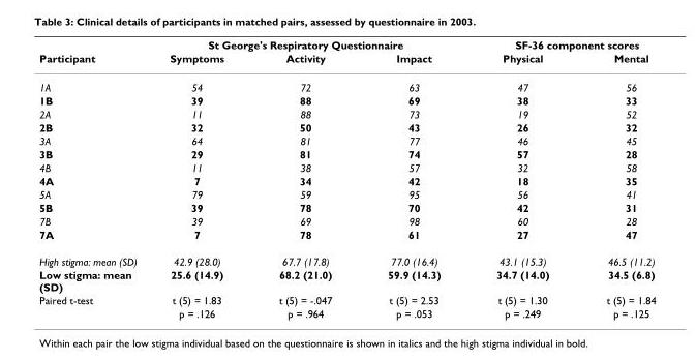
<table><thead><tr><td rowspan="2">Participant</td><td colspan="3">St George&#x27;s Respiratory Questionnaire</td><td colspan="2">SF-36 component scores</td></tr><tr><td>Symptoms</td><td>Activity</td><td>Impact</td><td>Physical</td><td>Mental</td></tr></thead><tbody><tr><td>1A</td><td>54</td><td>72</td><td>63</td><td>47</td><td>56</td></tr><tr><td>1B</td><td>39</td><td>88</td><td>69</td><td>38</td><td>33</td></tr><tr><td>2A</td><td>11</td><td>88</td><td>73</td><td>19</td><td>52</td></tr><tr><td>2B</td><td>32</td><td>50</td><td>43</td><td>26</td><td>32</td></tr><tr><td>3A</td><td>64</td><td>81</td><td>77</td><td>46</td><td>45</td></tr><tr><td>3B</td><td>29</td><td>81</td><td>74</td><td>57</td><td>28</td></tr><tr><td>4B</td><td>11</td><td>38</td><td>57</td><td>32</td><td>58</td></tr><tr><td>4A</td><td>7</td><td>34</td><td>42</td><td>18</td><td>35</td></tr><tr><td>5A</td><td>79</td><td>59</td><td>95</td><td>56</td><td>41</td></tr><tr><td>5B</td><td>39</td><td>78</td><td>70</td><td>42</td><td>31</td></tr><tr><td>7B</td><td>39</td><td>69</td><td>98</td><td>60</td><td>28</td></tr><tr><td>7A</td><td>7</td><td>78</td><td>61</td><td>27</td><td>47</td></tr><tr><td>High stigma: mean (SD)</td><td>42.9 (28.0)</td><td>67.7 (17.8)</td><td>77.0 (16.4)</td><td>43.1 (15.3)</td><td>46.5 (11.2)</td></tr><tr><td>Low stigma: mean (SD)</td><td>25.6 (14.9)</td><td>68.2 (21.0)</td><td>59.9 (14.3)</td><td>34.7 (14.0)</td><td>34.5 (6.8)</td></tr><tr><td rowspan="2">Paired t-test</td><td>t (5) = 1.83</td><td>t (5) = -.047</td><td>t (5) = 2.53</td><td>t (5) = 1.30</td><td>t (5) = 1.84</td></tr><tr><td>p = .126</td><td>p = .964</td><td>p = .053</td><td>p = .249</td><td>p = .125</td></tr></tbody></table>